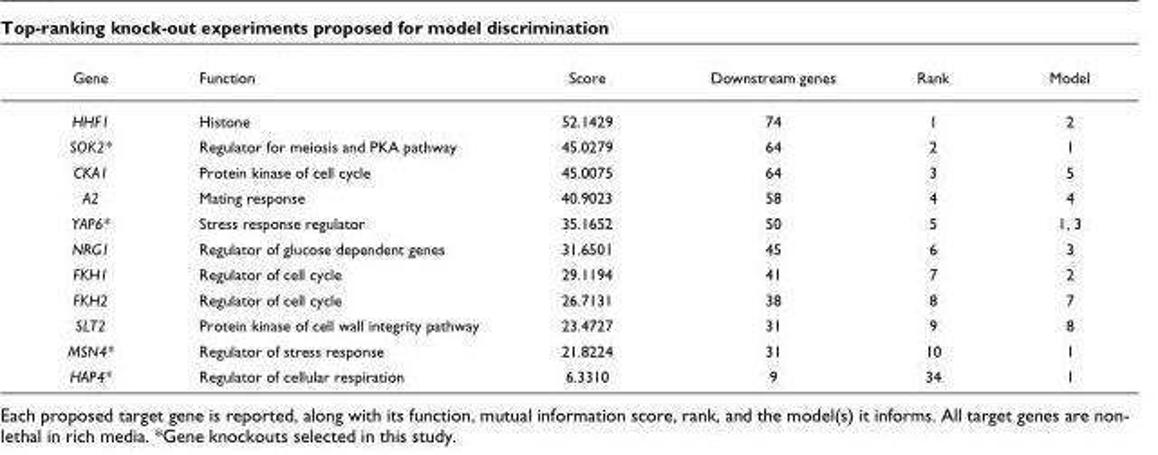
<table><thead><tr><td>Gene</td><td>Function</td><td>Score</td><td>Downstream genes</td><td>Rank</td><td>Model</td></tr></thead><tbody><tr><td>HHF1</td><td>Histone</td><td>52.1429</td><td>74</td><td>1</td><td>2</td></tr><tr><td>SOK2*</td><td>Regulator for meiosis and PKA pathway</td><td>45.0279</td><td>64</td><td>2</td><td>1</td></tr><tr><td>CKA1</td><td>Protein kinase of cell cycle</td><td>45.0075</td><td>64</td><td>3</td><td>5</td></tr><tr><td>A2</td><td>Mating response</td><td>40.9023</td><td>58</td><td>4</td><td>4</td></tr><tr><td>YAP6*</td><td>Stress response regulator</td><td>35.1652</td><td>50</td><td>5</td><td>1, 3</td></tr><tr><td>NRG1</td><td>Regulator of glucose dependent genes</td><td>31.6501</td><td>45</td><td>6</td><td>3</td></tr><tr><td>FKH1</td><td>Regulator of cell cycle</td><td>29.1194</td><td>41</td><td>7</td><td>2</td></tr><tr><td>FKH2</td><td>Regulator of cell cycle</td><td>26.7131</td><td>38</td><td>8</td><td>7</td></tr><tr><td>SLT2</td><td>Protein kinase of cell wall integrity pathway</td><td>23.4727</td><td>31</td><td>9</td><td>8</td></tr><tr><td>MSN4*</td><td>Regulator of stress response</td><td>21.8224</td><td>31</td><td>10</td><td>1</td></tr><tr><td>HAP4*</td><td>Regulator of cellular respiration</td><td>6.3310</td><td>9</td><td>34</td><td>1</td></tr></tbody></table>